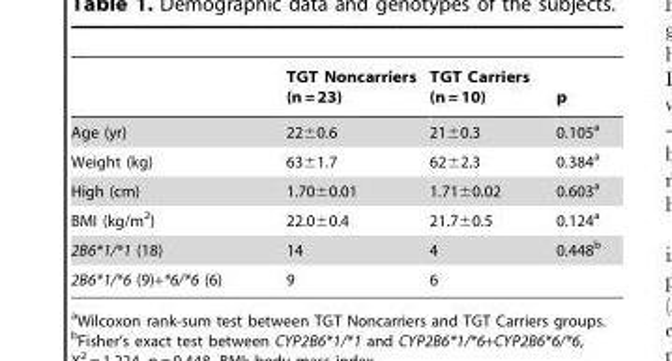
<table><thead><tr><td></td><td>TGT Noncarriers (n = 23)</td><td>TGT Carriers (n = 10)</td><td>p</td></tr></thead><tbody><tr><td>Age (yr)</td><td>22±0.6</td><td>21±0.3</td><td>0.105<sup>a</sup></td></tr><tr><td>Weight (kg)</td><td>63±1.7</td><td>62±2.3</td><td>0.384<sup>a</sup></td></tr><tr><td>High (cm)</td><td>1.70±0.01</td><td>1.71±0.02</td><td>0.603<sup>a</sup></td></tr><tr><td>BMI (kg/m<sup>2</sup>)</td><td>22.0±0.4</td><td>21.7±0.5</td><td>0.124<sup>a</sup></td></tr><tr><td>2B6*1/*1 (18)</td><td>14</td><td>4</td><td>0.448<sup>b</sup></td></tr><tr><td>2B6*1/*6 (9)+*6/*6 (6)</td><td>9</td><td>6</td><td></td></tr></tbody></table>